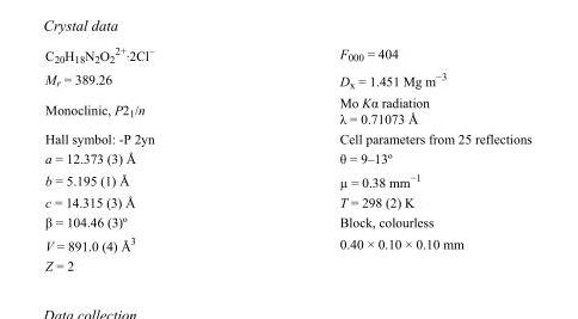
<table><tbody><tr><td>C<sub>20</sub>H<sub>18</sub>N<sub>2</sub>O<sub>2</sub> <sup>2+</sup>·2Cl<sup>–</sup></td><td>F<sub>000</sub> = 404</td></tr><tr><td>M<sub>r</sub> = 389.26</td><td>D<sub>x</sub> = 1.451 Mg m<sup>−3</sup></td></tr><tr><td>Monoclinic, P2<sub>1</sub>/n</td><td>Mo Kα radiation λ = 0.71073 Å</td></tr><tr><td>Hall symbol: -P 2yn</td><td>Cell parameters from 25 reflections</td></tr><tr><td>a = 12.373 (3) Å</td><td>θ = 9–13º</td></tr><tr><td>b = 5.195 (1) Å</td><td>µ = 0.38 mm<sup>−1</sup></td></tr><tr><td>c = 14.315 (3) Å</td><td>T = 298 (2) K</td></tr><tr><td>β = 104.46 (3)º</td><td>Block, colourless</td></tr><tr><td>V = 891.0 (4) Å<sup>3</sup></td><td>0.40 × 0.10 × 0.10 mm</td></tr><tr><td>Z = 2</td><td></td></tr></tbody></table>